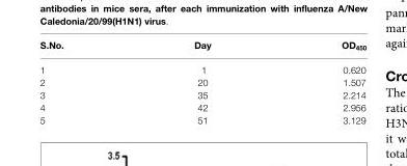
<table><thead><tr><td>S.No.</td><td>Day</td><td>OD<sub>450</sub></td></tr></thead><tbody><tr><td>1</td><td>1</td><td>0.620</td></tr><tr><td>2</td><td>20</td><td>1.507</td></tr><tr><td>3</td><td>35</td><td>2.214</td></tr><tr><td>4</td><td>42</td><td>2.956</td></tr><tr><td>5</td><td>51</td><td>3.129</td></tr></tbody></table>